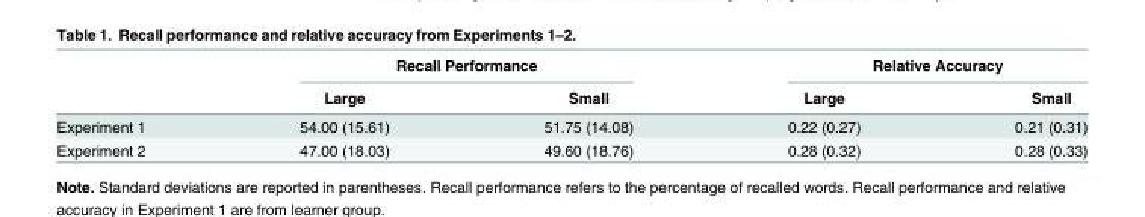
<table><thead><tr><td rowspan="2"></td><td colspan="2">Recall Performance</td><td colspan="2">Relative Accuracy</td></tr><tr><td>Large</td><td>Small</td><td>Large</td><td>Small</td></tr></thead><tbody><tr><td>Experiment 1</td><td>54.00 (15.61)</td><td>51.75 (14.08)</td><td>0.22 (0.27)</td><td>0.21 (0.31)</td></tr><tr><td>Experiment 2</td><td>47.00 (18.03)</td><td>49.60 (18.76)</td><td>0.28 (0.32)</td><td>0.28 (0.33)</td></tr></tbody></table>